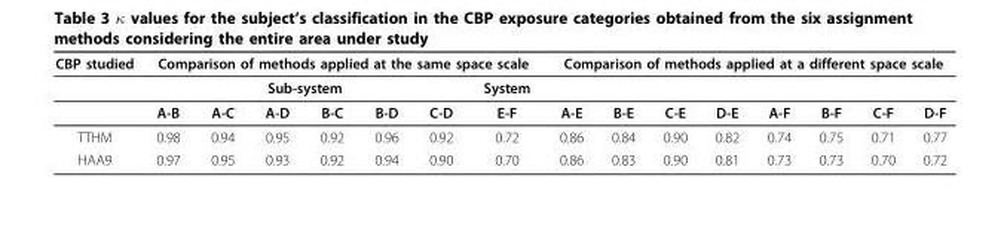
<table><thead><tr><td rowspan="3">CBP studied</td><td colspan="7">Comparison of methods applied at the same space scale</td><td colspan="8">Comparison of methods applied at a different space scale</td></tr><tr><td colspan="6">Sub-system</td><td rowspan="2">System E-F</td><td rowspan="2">A-E</td><td rowspan="2">B-E</td><td rowspan="2">C-E</td><td rowspan="2">D-E</td><td rowspan="2">A-F</td><td rowspan="2">B-F</td><td rowspan="2">C-F</td><td rowspan="2">D-F</td></tr><tr><td>A-B</td><td>A-C</td><td>A-D</td><td>B-C</td><td>B-D</td><td>C-D</td></tr></thead><tbody><tr><td>TTHM</td><td>0.98</td><td>0.94</td><td>0.95</td><td>0.92</td><td>0.96</td><td>0.92</td><td>0.72</td><td>0.86</td><td>0.84</td><td>0.90</td><td>0.82</td><td>0.74</td><td>0.75</td><td>0.71</td><td>0.77</td></tr><tr><td>HAA9</td><td>0.97</td><td>0.95</td><td>0.93</td><td>0.92</td><td>0.94</td><td>0.90</td><td>0.70</td><td>0.86</td><td>0.83</td><td>0.90</td><td>0.81</td><td>0.73</td><td>0.73</td><td>0.70</td><td>0.72</td></tr></tbody></table>